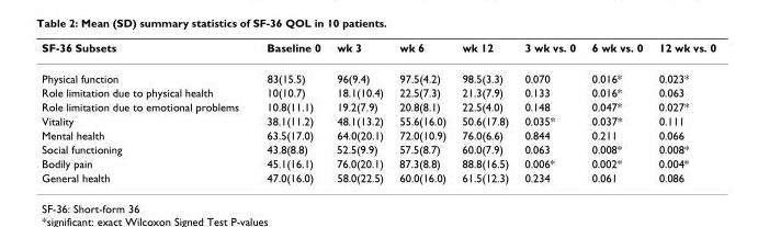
<table><thead><tr><td>SF-36 Subsets</td><td>Baseline 0</td><td>wk 3</td><td>wk 6</td><td>wk 12</td><td>3 wk vs. 0</td><td>6 wk vs. 0</td><td>12 wk vs. 0</td></tr></thead><tbody><tr><td>Physical function</td><td>83(15.5)</td><td>96(9.4)</td><td>97.5(4.2)</td><td>98.5(3.3)</td><td>0.070</td><td>0.016*</td><td>0.023*</td></tr><tr><td>Role limitation due to physical health</td><td>10(10.7)</td><td>18.1(10.4)</td><td>22.5(7.3)</td><td>21.3(7.9)</td><td>0.133</td><td>0.016*</td><td>0.063</td></tr><tr><td>Role limitation due to emotional problems</td><td>10.8(11.1)</td><td>19.2(7.9)</td><td>20.8(8.1)</td><td>22.5(4.0)</td><td>0.148</td><td>0.047*</td><td>0.027*</td></tr><tr><td>Vitality</td><td>38.1(11.2)</td><td>48.1(13.2)</td><td>55.6(16.0)</td><td>50.6(17.8)</td><td>0.035*</td><td>0.037*</td><td>0.111</td></tr><tr><td>Mental health</td><td>63.5(17.0)</td><td>64.0(20.1)</td><td>72.0(10.9)</td><td>76.0(6.6)</td><td>0.844</td><td>0.211</td><td>0.066</td></tr><tr><td>Social functioning</td><td>43.8(8.8)</td><td>52.5(9.9)</td><td>57.5(8.7)</td><td>60.0(7.9)</td><td>0.063</td><td>0.008*</td><td>0.008*</td></tr><tr><td>Bodily pain</td><td>45.1(16.1)</td><td>76.0(20.1)</td><td>87.3(8.8)</td><td>88.8(16.5)</td><td>0.006*</td><td>0.002*</td><td>0.004*</td></tr><tr><td>General health</td><td>47.0(16.0)</td><td>58.0(22.5)</td><td>60.0(16.0)</td><td>61.5(12.3)</td><td>0.234</td><td>0.061</td><td>0.086</td></tr></tbody></table>